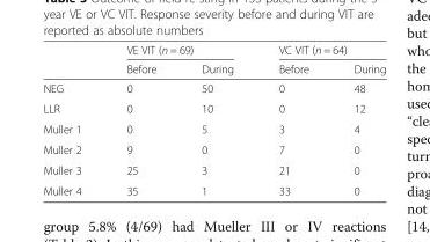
<table><thead><tr><td rowspan="2"></td><td colspan="2">VE VIT (n = 69)</td><td colspan="2">VC VIT (n = 64)</td></tr><tr><td>Before</td><td>During</td><td>Before</td><td>During</td></tr></thead><tbody><tr><td>NEG</td><td>0</td><td>50</td><td>0</td><td>48</td></tr><tr><td>LLR</td><td>0</td><td>10</td><td>0</td><td>12</td></tr><tr><td>Muller 1</td><td>0</td><td>5</td><td>3</td><td>4</td></tr><tr><td>Muller 2</td><td>9</td><td>0</td><td>7</td><td>0</td></tr><tr><td>Muller 3</td><td>25</td><td>3</td><td>21</td><td>0</td></tr><tr><td>Muller 4</td><td>35</td><td>1</td><td>33</td><td>0</td></tr></tbody></table>